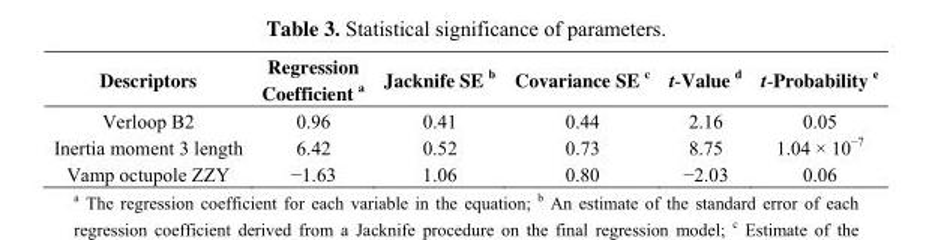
<table><thead><tr><td>Descriptors</td><td>Regression Coefficient a</td><td>Jacknife SE b</td><td>Covariance SE c</td><td>t-Value d</td><td>t-Probability e</td></tr></thead><tbody><tr><td>Verloop B2</td><td>0.96</td><td>0.41</td><td>0.44</td><td>2.16</td><td>0.05</td></tr><tr><td>Inertia moment 3 length</td><td>6.42</td><td>0.52</td><td>0.73</td><td>8.75</td><td>1.04 × 10<sup>−7</sup></td></tr><tr><td>Vamp octupole ZZY</td><td>−1.63</td><td>1.06</td><td>0.80</td><td>−2.03</td><td>0.06</td></tr></tbody></table>